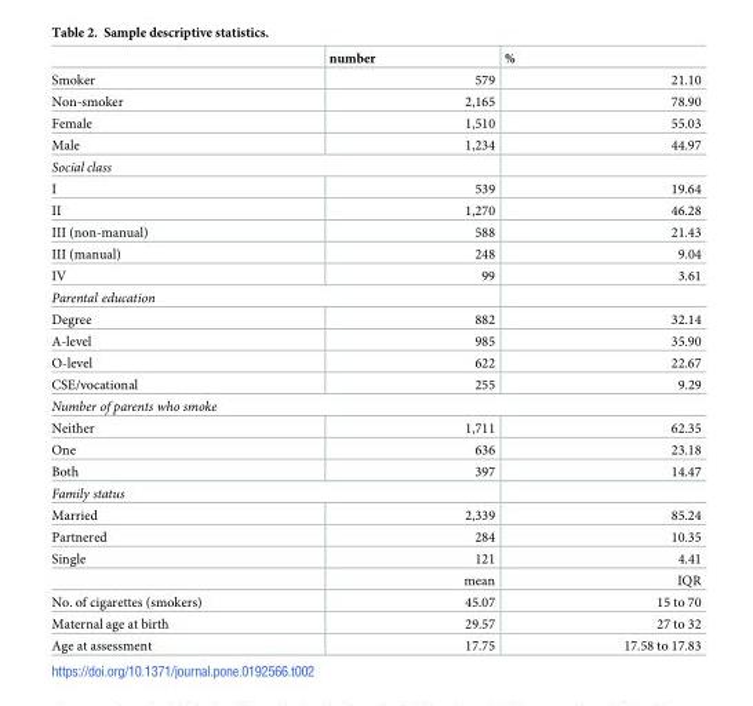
<table><thead><tr><td></td><td>number</td><td>%</td></tr></thead><tbody><tr><td>Smoker</td><td>579</td><td>21.10</td></tr><tr><td>Non-smoker</td><td>2,165</td><td>78.90</td></tr><tr><td>Female</td><td>1,510</td><td>55.03</td></tr><tr><td>Male</td><td>1,234</td><td>44.97</td></tr><tr><td colspan="3">Social class</td></tr><tr><td>I</td><td>539</td><td>19.64</td></tr><tr><td>II</td><td>1,270</td><td>46.28</td></tr><tr><td>III (non-manual)</td><td>588</td><td>21.43</td></tr><tr><td>III (manual)</td><td>248</td><td>9.04</td></tr><tr><td>IV</td><td>99</td><td>3.61</td></tr><tr><td colspan="3">Parental education</td></tr><tr><td>Degree</td><td>882</td><td>32.14</td></tr><tr><td>A-level</td><td>985</td><td>35.90</td></tr><tr><td>O-level</td><td>622</td><td>22.67</td></tr><tr><td>CSE/vocational</td><td>255</td><td>9.29</td></tr><tr><td colspan="3">Number of parents who smoke</td></tr><tr><td>Neither</td><td>1,711</td><td>62.35</td></tr><tr><td>One</td><td>636</td><td>23.18</td></tr><tr><td>Both</td><td>397</td><td>14.47</td></tr><tr><td colspan="3">Family status</td></tr><tr><td>Married</td><td>2,339</td><td>85.24</td></tr><tr><td>Partnered</td><td>284</td><td>10.35</td></tr><tr><td rowspan="2">Single</td><td>121</td><td>4.41</td></tr><tr><td>mean</td><td>IQR</td></tr><tr><td>No. of cigarettes (smokers)</td><td>45.07</td><td>15 to 70</td></tr><tr><td>Maternal age at birth</td><td>29.57</td><td>27 to 32</td></tr><tr><td>Age at assessment</td><td>17.75</td><td>17.58 to 17.83</td></tr></tbody></table>